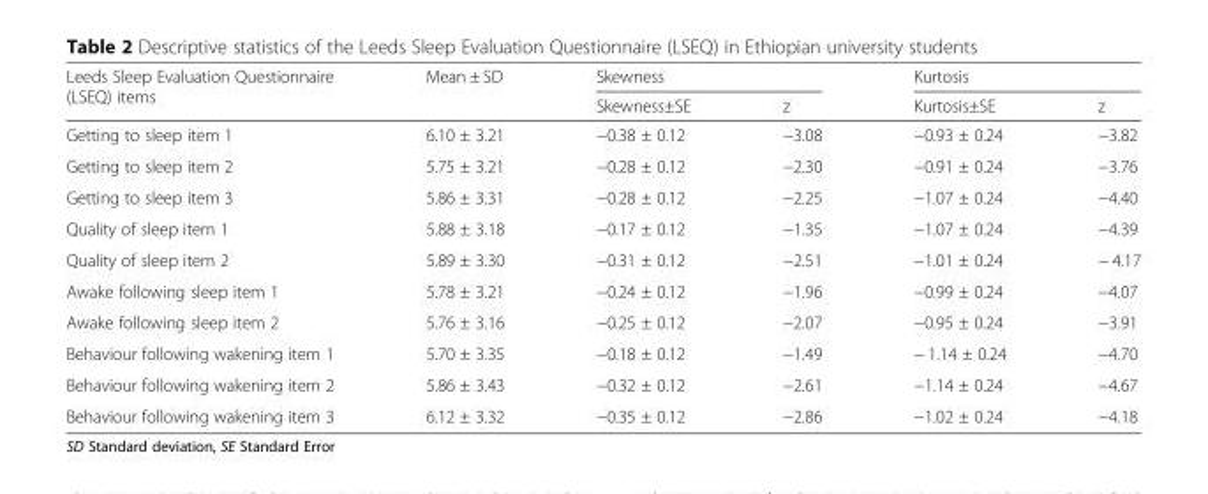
<table><thead><tr><td rowspan="2">Leeds Sleep Evaluation Questionnaire (LSEQ) items</td><td rowspan="2">Mean ± SD</td><td colspan="2">Skewness</td><td colspan="2">Kurtosis</td></tr><tr><td>Skewness±SE</td><td>z</td><td>Kurtosis±SE</td><td>z</td></tr></thead><tbody><tr><td>Getting to sleep item 1</td><td>6.10 ± 3.21</td><td>−0.38 ± 0.12</td><td>−3.08</td><td>−0.93 ± 0.24</td><td>−3.82</td></tr><tr><td>Getting to sleep item 2</td><td>5.75 ± 3.21</td><td>−0.28 ± 0.12</td><td>−2.30</td><td>−0.91 ± 0.24</td><td>−3.76</td></tr><tr><td>Getting to sleep item 3</td><td>5.86 ± 3.31</td><td>−0.28 ± 0.12</td><td>−2.25</td><td>−1.07 ± 0.24</td><td>−4.40</td></tr><tr><td>Quality of sleep item 1</td><td>5.88 ± 3.18</td><td>−0.17 ± 0.12</td><td>−1.35</td><td>−1.07 ± 0.24</td><td>−4.39</td></tr><tr><td>Quality of sleep item 2</td><td>5.89 ± 3.30</td><td>−0.31 ± 0.12</td><td>−2.51</td><td>−1.01 ± 0.24</td><td>− 4.17</td></tr><tr><td>Awake following sleep item 1</td><td>5.78 ± 3.21</td><td>−0.24 ± 0.12</td><td>−1.96</td><td>−0.99 ± 0.24</td><td>−4.07</td></tr><tr><td>Awake following sleep item 2</td><td>5.76 ± 3.16</td><td>−0.25 ± 0.12</td><td>−2.07</td><td>−0.95 ± 0.24</td><td>−3.91</td></tr><tr><td>Behaviour following wakening item 1</td><td>5.70 ± 3.35</td><td>−0.18 ± 0.12</td><td>−1.49</td><td>− 1.14 ± 0.24</td><td>−4.70</td></tr><tr><td>Behaviour following wakening item 2</td><td>5.86 ± 3.43</td><td>−0.32 ± 0.12</td><td>−2.61</td><td>−1.14 ± 0.24</td><td>−4.67</td></tr><tr><td>Behaviour following wakening item 3</td><td>6.12 ± 3.32</td><td>−0.35 ± 0.12</td><td>−2.86</td><td>−1.02 ± 0.24</td><td>−4.18</td></tr></tbody></table>